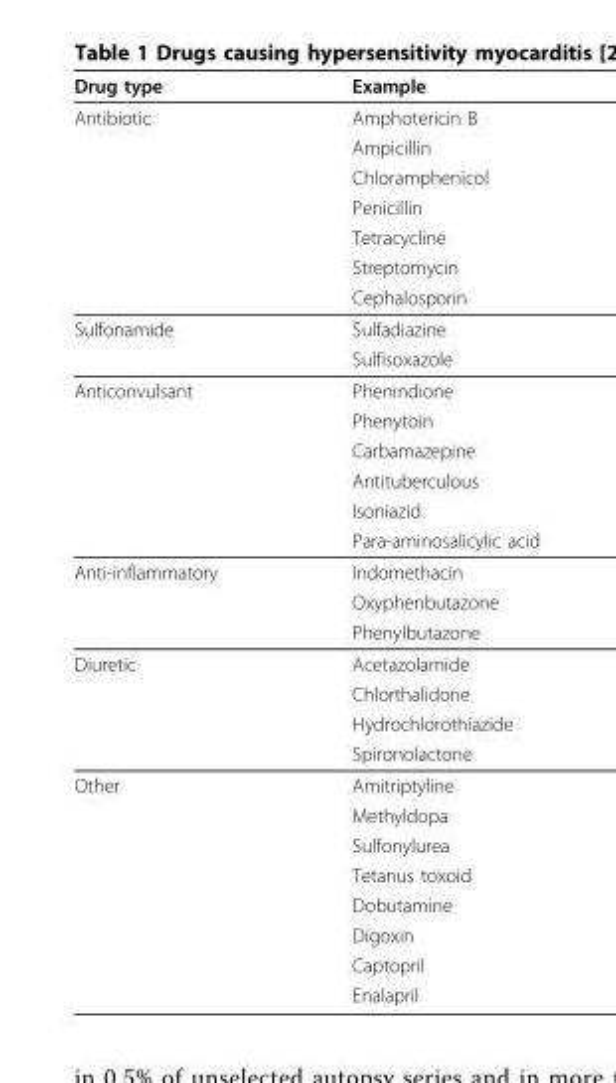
<table><thead><tr><td>Drug type</td><td>Example</td></tr></thead><tbody><tr><td rowspan="7">Antibiotic</td><td>Amphotericin B</td></tr><tr><td>Ampicillin</td></tr><tr><td>Chloramphenicol</td></tr><tr><td>Penicillin</td></tr><tr><td>Tetracycline</td></tr><tr><td>Streptomycin</td></tr><tr><td>Cephalosporin</td></tr><tr><td rowspan="2">Sulfonamide</td><td>Sulfadiazine</td></tr><tr><td>Sulfisoxazole</td></tr><tr><td rowspan="6">Anticonvulsant</td><td>Phenindione</td></tr><tr><td>Phenytoin</td></tr><tr><td>Carbamazepine</td></tr><tr><td>Antituberculous</td></tr><tr><td>Isoniazid</td></tr><tr><td>Para-aminosalicylic acid</td></tr><tr><td rowspan="3">Anti-inflammatory</td><td>Indomethacin</td></tr><tr><td>Oxyphenbutazone</td></tr><tr><td>Phenylbutazone</td></tr><tr><td rowspan="4">Diuretic</td><td>Acetazolamide</td></tr><tr><td>Chlorthalidone</td></tr><tr><td>Hydrochlorothiazide</td></tr><tr><td>Spironolactone</td></tr><tr><td rowspan="8">Other</td><td>Amitriptyline</td></tr><tr><td>Methyldopa</td></tr><tr><td>Sulfonylurea</td></tr><tr><td>Tetanus toxoid</td></tr><tr><td>Dobutamine</td></tr><tr><td>Digoxin</td></tr><tr><td>Captopril</td></tr><tr><td>Enalapril</td></tr></tbody></table>